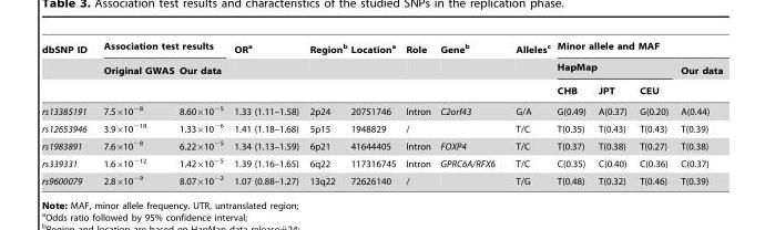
<table><thead><tr><td rowspan="3">dbSNP ID</td><td colspan="2">Association test results</td><td rowspan="3">OR<sup>a</sup></td><td rowspan="3">Region<sup>b</sup></td><td rowspan="3">Location<sup>a</sup></td><td rowspan="3">Role</td><td rowspan="3">Gene<sup>b</sup></td><td rowspan="3">Alleles<sup>c</sup></td><td colspan="4">Minor allele and MAF</td></tr><tr><td rowspan="2">Original GWAS</td><td rowspan="2">Our data</td><td colspan="3">HapMap</td><td rowspan="2">Our data</td></tr><tr><td>CHB</td><td>JPT</td><td>CEU</td></tr></thead><tbody><tr><td>rs13385191</td><td>7.5×10<sup>−8</sup></td><td>8.60×10<sup>−5</sup></td><td>1.33 (1.11–1.58)</td><td>2p24</td><td>20751746</td><td>Intron</td><td>C2orf43</td><td>G/A</td><td>G(0.49)</td><td>A(0.37)</td><td>G(0.20)</td><td>A(0.44)</td></tr><tr><td>rs12653946</td><td>3.9×10<sup>−18</sup></td><td>1.33×10<sup>−6</sup></td><td>1.41 (1.18–1.68)</td><td>5p15</td><td>1948829</td><td>/</td><td></td><td>T/C</td><td>T(0.35)</td><td>T(0.43)</td><td>T(0.43)</td><td>T(0.39)</td></tr><tr><td>rs1983891</td><td>7.6×10<sup>−8</sup></td><td>6.22×10<sup>−5</sup></td><td>1.34 (1.13–1.59)</td><td>6p21</td><td>41644405</td><td>Intron</td><td>FOXP4</td><td>T/C</td><td>T(0.37)</td><td>T(0.38)</td><td>T(0.27)</td><td>T(0.38)</td></tr><tr><td>rs339331</td><td>1.6×10<sup>−12</sup></td><td>1.42×10<sup>−5</sup></td><td>1.39 (1.16–1.65)</td><td>6q22</td><td>117316745</td><td>Intron</td><td>GPRC6A/RFX6</td><td>T/C</td><td>C(0.35)</td><td>C(0.40)</td><td>C(0.36)</td><td>C(0.37)</td></tr><tr><td>rs9600079</td><td>2.8×10<sup>−9</sup></td><td>8.07×10<sup>−2</sup></td><td>1.07 (0.88–1.27)</td><td>13q22</td><td>72626140</td><td>/</td><td></td><td>T/G</td><td>T(0.48)</td><td>T(0.32)</td><td>T(0.46)</td><td>T(0.39)</td></tr></tbody></table>